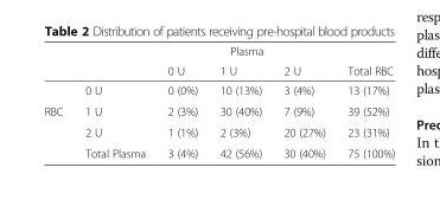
<table><thead><tr><td rowspan="2"></td><td rowspan="2"></td><td colspan="3">Plasma</td><td rowspan="2">Total RBC</td></tr><tr><td>0 U</td><td>1 U</td><td>2 U</td></tr></thead><tbody><tr><td></td><td>0 U</td><td>0 (0%)</td><td>10 (13%)</td><td>3 (4%)</td><td>13 (17%)</td></tr><tr><td rowspan="3">RBC</td><td>1 U</td><td>2 (3%)</td><td>30 (40%)</td><td>7 (9%)</td><td>39 (52%)</td></tr><tr><td>2 U</td><td>1 (1%)</td><td>2 (3%)</td><td>20 (27%)</td><td>23 (31%)</td></tr><tr><td>Total Plasma</td><td>3 (4%)</td><td>42 (56%)</td><td>30 (40%)</td><td>75 (100%)</td></tr></tbody></table>